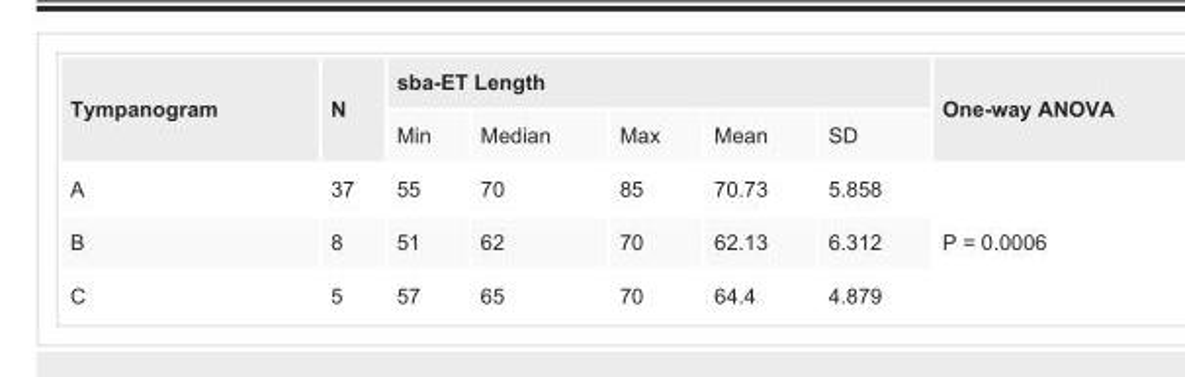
<table><tbody><tr><td rowspan="2">Tympanogram</td><td rowspan="2">N</td><td colspan="5">sba-ET Length</td><td rowspan="2">One-way ANOVA</td></tr><tr><td>Min</td><td>Median</td><td>Max</td><td>Mean</td><td>SD</td></tr><tr><td>A</td><td>37</td><td>55</td><td>70</td><td>85</td><td>70.73</td><td>5.858</td><td rowspan="3">P = 0.0006</td></tr><tr><td>B</td><td>8</td><td>51</td><td>62</td><td>70</td><td>62.13</td><td>6.312</td></tr><tr><td>C</td><td>5</td><td>57</td><td>65</td><td>70</td><td>64.4</td><td>4.879</td></tr></tbody></table>